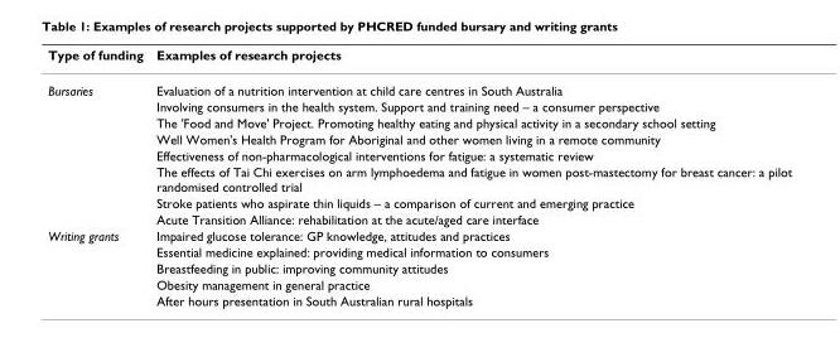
<table><thead><tr><td>Type of funding</td><td>Examples of research projects</td></tr></thead><tbody><tr><td rowspan="8">Bursaries</td><td>Evaluation of a nutrition intervention at child care centres in South Australia</td></tr><tr><td>Involving consumers in the health system. Support and training need – a consumer perspective</td></tr><tr><td>The &#x27;Food and Move&#x27; Project. Promoting healthy eating and physical activity in a secondary school setting</td></tr><tr><td>Well Women&#x27;s Health Program for Aboriginal and other women living in a remote community</td></tr><tr><td>Effectiveness of non-pharmacological interventions for fatigue: a systematic review</td></tr><tr><td>The effects of Tai Chi exercises on arm lymphoedema and fatigue in women post-mastectomy for breast cancer: a pilot randomised controlled trial</td></tr><tr><td>Stroke patients who aspirate thin liquids – a comparison of current and emerging practice</td></tr><tr><td>Acute Transition Alliance: rehabilitation at the acute/aged care interface</td></tr><tr><td rowspan="5">Writing grants</td><td>Impaired glucose tolerance: GP knowledge, attitudes and practices</td></tr><tr><td>Essential medicine explained: providing medical information to consumers</td></tr><tr><td>Breastfeeding in public: improving community attitudes</td></tr><tr><td>Obesity management in general practice</td></tr><tr><td>After hours presentation in South Australian rural hospitals</td></tr></tbody></table>